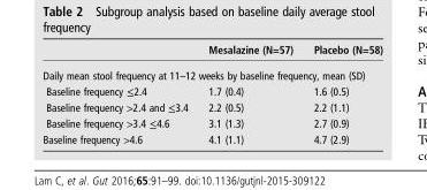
<table><thead><tr><td></td><td>Mesalazine (N=57)</td><td>Placebo (N=58)</td></tr></thead><tbody><tr><td colspan="3">Daily mean stool frequency at 11–12 weeks by baseline frequency, mean (SD)</td></tr><tr><td>Baseline frequency ≤2.4</td><td>1.7 (0.4)</td><td>1.6 (0.5)</td></tr><tr><td>Baseline frequency &gt;2.4 and ≤3.4</td><td>2.2 (0.5)</td><td>2.2 (1.1)</td></tr><tr><td>Baseline frequency &gt;3.4 ≤4.6</td><td>3.1 (1.3)</td><td>2.7 (0.9)</td></tr><tr><td>Baseline frequency &gt;4.6</td><td>4.1 (1.1)</td><td>4.7 (2.9)</td></tr></tbody></table>